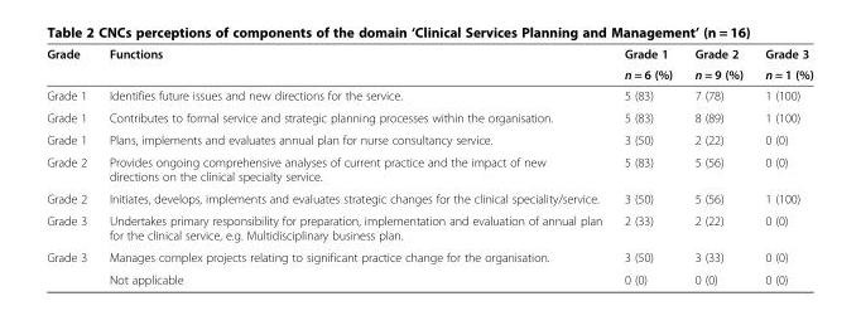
<table><thead><tr><td rowspan="2">Grade</td><td rowspan="2">Functions</td><td rowspan="2">Grade 1 n = 6 (%)</td><td rowspan="2">Grade 2 n = 9 (%)</td><td rowspan="2">Grade 3 n = 1 (%)</td></tr><tr></tr></thead><tbody><tr><td>Grade 1</td><td>Identifies future issues and new directions for the service.</td><td>5 (83)</td><td>7 (78)</td><td>1 (100)</td></tr><tr><td>Grade 1</td><td>Contributes to formal service and strategic planning processes within the organisation.</td><td>5 (83)</td><td>8 (89)</td><td>1 (100)</td></tr><tr><td>Grade 1</td><td>Plans, implements and evaluates annual plan for nurse consultancy service.</td><td>3 (50)</td><td>2 (22)</td><td>0 (0)</td></tr><tr><td>Grade 2</td><td>Provides ongoing comprehensive analyses of current practice and the impact of new directions on the clinical specialty service.</td><td>5 (83)</td><td>5 (56)</td><td>0 (0)</td></tr><tr><td>Grade 2</td><td>Initiates, develops, implements and evaluates strategic changes for the clinical speciality/service.</td><td>3 (50)</td><td>5 (56)</td><td>1 (100)</td></tr><tr><td>Grade 3</td><td>Undertakes primary responsibility for preparation, implementation and evaluation of annual plan for the clinical service, e.g. Multidisciplinary business plan.</td><td>2 (33)</td><td>2 (22)</td><td>0 (0)</td></tr><tr><td rowspan="2">Grade 3</td><td>Manages complex projects relating to significant practice change for the organisation.</td><td>3 (50)</td><td>3 (33)</td><td>0 (0)</td></tr><tr><td>Not applicable</td><td>0 (0)</td><td>0 (0)</td><td>0 (0)</td></tr></tbody></table>